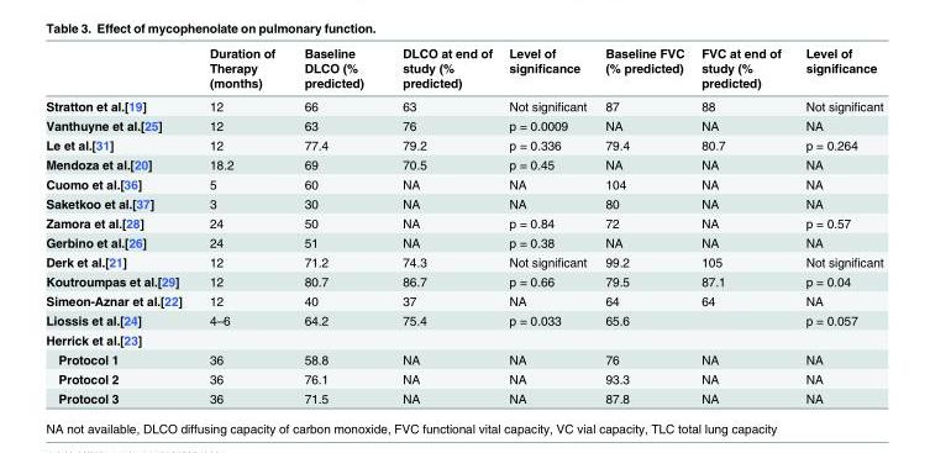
<table><thead><tr><td></td><td>Duration of Therapy (months)</td><td>Baseline DLCO (% predicted)</td><td>DLCO at end of study (% predicted)</td><td>Level of significance</td><td>Baseline FVC (% predicted)</td><td>FVC at end of study (% predicted)</td><td>Level of significance</td></tr></thead><tbody><tr><td>Stratton et al.[19]</td><td>12</td><td>66</td><td>63</td><td>Not significant</td><td>87</td><td>88</td><td>Not significant</td></tr><tr><td>Vanthuyne et al.[25]</td><td>12</td><td>63</td><td>76</td><td>p = 0.0009</td><td>NA</td><td>NA</td><td>NA</td></tr><tr><td>Le et al.[31]</td><td>12</td><td>77.4</td><td>79.2</td><td>p = 0.336</td><td>79.4</td><td>80.7</td><td>p = 0.264</td></tr><tr><td>Mendoza et al.[20]</td><td>18.2</td><td>69</td><td>70.5</td><td>p = 0.45</td><td>NA</td><td>NA</td><td>NA</td></tr><tr><td>Cuomo et al.[36]</td><td>5</td><td>60</td><td>NA</td><td>NA</td><td>104</td><td>NA</td><td>NA</td></tr><tr><td>Saketkoo et al.[37]</td><td>3</td><td>30</td><td>NA</td><td>NA</td><td>80</td><td>NA</td><td>NA</td></tr><tr><td>Zamora et al.[28]</td><td>24</td><td>50</td><td>NA</td><td>p = 0.84</td><td>72</td><td>NA</td><td>p = 0.57</td></tr><tr><td>Gerbino et al.[26]</td><td>24</td><td>51</td><td>NA</td><td>p = 0.38</td><td>NA</td><td>NA</td><td>NA</td></tr><tr><td>Derk et al.[21]</td><td>12</td><td>71.2</td><td>74.3</td><td>Not significant</td><td>99.2</td><td>105</td><td>Not significant</td></tr><tr><td>Koutroumpas et al.[29]</td><td>12</td><td>80.7</td><td>86.7</td><td>p = 0.66</td><td>79.5</td><td>87.1</td><td>p = 0.04</td></tr><tr><td>Simeon-Aznar et al.[22]</td><td>12</td><td>40</td><td>37</td><td>NA</td><td>64</td><td>64</td><td>NA</td></tr><tr><td>Liossis et al.[24]</td><td>4–6</td><td>64.2</td><td>75.4</td><td>p = 0.033</td><td>65.6</td><td></td><td>p = 0.057</td></tr><tr><td colspan="8">Herrick et al.[23]</td></tr><tr><td>Protocol 1</td><td>36</td><td>58.8</td><td>NA</td><td>NA</td><td>76</td><td>NA</td><td>NA</td></tr><tr><td>Protocol 2</td><td>36</td><td>76.1</td><td>NA</td><td>NA</td><td>93.3</td><td>NA</td><td>NA</td></tr><tr><td>Protocol 3</td><td>36</td><td>71.5</td><td>NA</td><td>NA</td><td>87.8</td><td>NA</td><td>NA</td></tr></tbody></table>